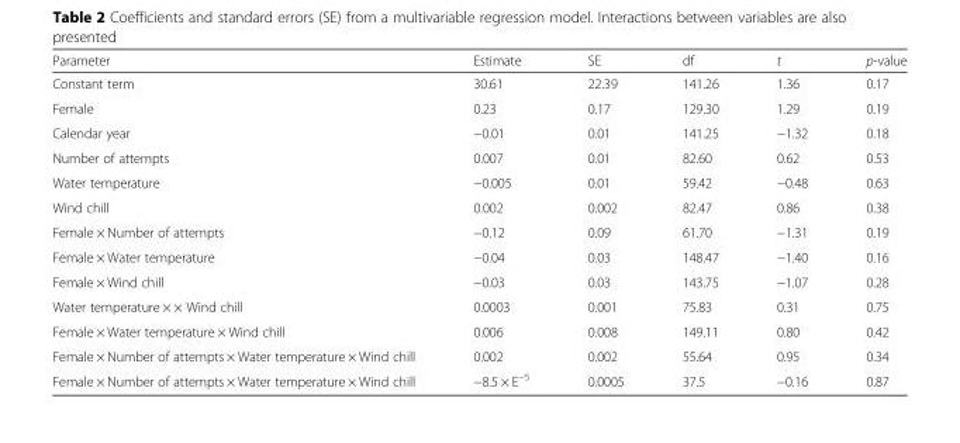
<table><thead><tr><td>Parameter</td><td>Estimate</td><td>SE</td><td>df</td><td>t</td><td>p-value</td></tr></thead><tbody><tr><td>Constant term</td><td>30.61</td><td>22.39</td><td>141.26</td><td>1.36</td><td>0.17</td></tr><tr><td>Female</td><td>0.23</td><td>0.17</td><td>129.30</td><td>1.29</td><td>0.19</td></tr><tr><td>Calendar year</td><td>−0.01</td><td>0.01</td><td>141.25</td><td>−1.32</td><td>0.18</td></tr><tr><td>Number of attempts</td><td>0.007</td><td>0.01</td><td>82.60</td><td>0.62</td><td>0.53</td></tr><tr><td>Water temperature</td><td>−0.005</td><td>0.01</td><td>59.42</td><td>−0.48</td><td>0.63</td></tr><tr><td>Wind chill</td><td>0.002</td><td>0.002</td><td>82.47</td><td>0.86</td><td>0.38</td></tr><tr><td>Female × Number of attempts</td><td>−0.12</td><td>0.09</td><td>61.70</td><td>−1.31</td><td>0.19</td></tr><tr><td>Female × Water temperature</td><td>−0.04</td><td>0.03</td><td>148.47</td><td>−1.40</td><td>0.16</td></tr><tr><td>Female × Wind chill</td><td>−0.03</td><td>0.03</td><td>143.75</td><td>−1.07</td><td>0.28</td></tr><tr><td>Water temperature × × Wind chill</td><td>0.0003</td><td>0.001</td><td>75.83</td><td>0.31</td><td>0.75</td></tr><tr><td>Female × Water temperature × Wind chill</td><td>0.006</td><td>0.008</td><td>149.11</td><td>0.80</td><td>0.42</td></tr><tr><td>Female × Number of attempts × Water temperature × Wind chill</td><td>0.002</td><td>0.002</td><td>55.64</td><td>0.95</td><td>0.34</td></tr><tr><td>Female × Number of attempts × Water temperature × Wind chill</td><td>−8.5 × E<sup>−5</sup></td><td>0.0005</td><td>37.5</td><td>−0.16</td><td>0.87</td></tr></tbody></table>